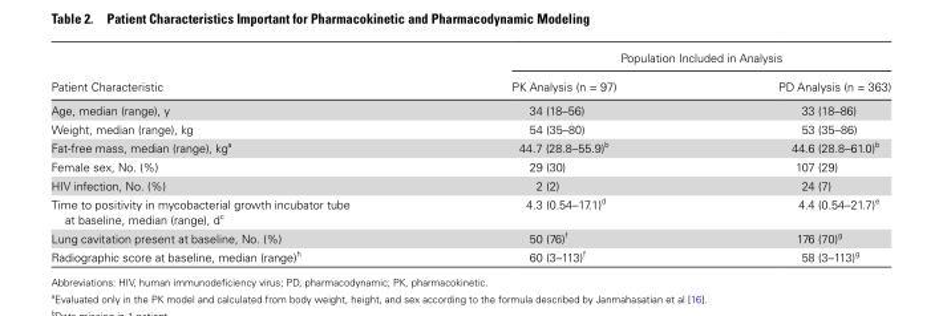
<table><thead><tr><td rowspan="2">Patient Characteristic</td><td colspan="2">Population Included in Analysis</td></tr><tr><td>PK Analysis (n = 97)</td><td>PD Analysis (n = 363)</td></tr></thead><tbody><tr><td>Age, median (range), y</td><td>34 (18–56)</td><td>33 (18–86)</td></tr><tr><td>Weight, median (range), kg</td><td>54 (35–80)</td><td>53 (35–86)</td></tr><tr><td>Fat-free mass, median (range), kg<sup>a</sup></td><td>44.7 (28.8–55.9)<sup>b</sup></td><td>44.6 (28.8–61.0)<sup>b</sup></td></tr><tr><td>Female sex, No. (%)</td><td>29 (30)</td><td>107 (29)</td></tr><tr><td>HIV infection, No. (%)</td><td>2 (2)</td><td>24 (7)</td></tr><tr><td>Time to positivity in mycobacterial growth incubator tube at baseline, median (range), d<sup>c</sup></td><td>4.3 (0.54–17.1)<sup>d</sup></td><td>4.4 (0.54–21.7)<sup>e</sup></td></tr><tr><td>Lung cavitation present at baseline, No. (%)</td><td>50 (76)<sup>f</sup></td><td>176 (70)<sup>g</sup></td></tr><tr><td>Radiographic score at baseline, median (range)<sup>h</sup></td><td>60 (3–113)<sup>f</sup></td><td>58 (3–113)<sup>g</sup></td></tr></tbody></table>